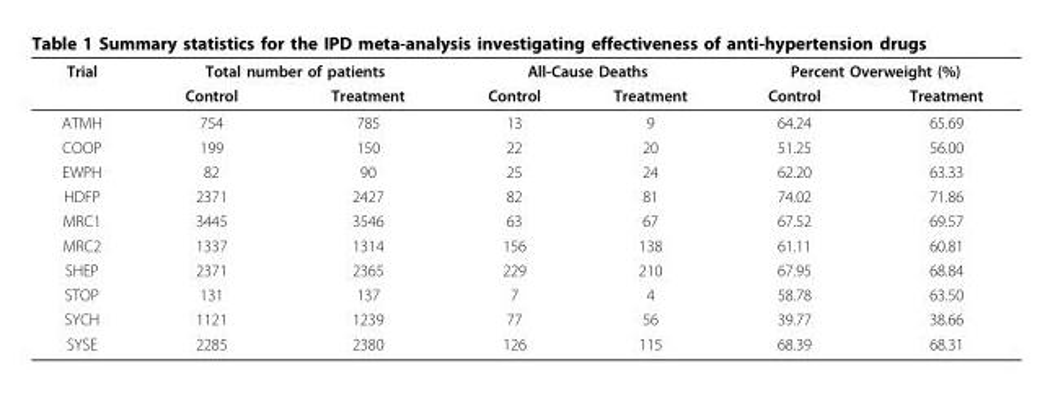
<table><thead><tr><td rowspan="2">Trial</td><td colspan="2">Total number of patients</td><td colspan="2">All-Cause Deaths</td><td colspan="2">Percent Overweight (%)</td></tr><tr><td>Control</td><td>Treatment</td><td>Control</td><td>Treatment</td><td>Control</td><td>Treatment</td></tr></thead><tbody><tr><td>ATMH</td><td>754</td><td>785</td><td>13</td><td>9</td><td>64.24</td><td>65.69</td></tr><tr><td>COOP</td><td>199</td><td>150</td><td>22</td><td>20</td><td>51.25</td><td>56.00</td></tr><tr><td>EWPH</td><td>82</td><td>90</td><td>25</td><td>24</td><td>62.20</td><td>63.33</td></tr><tr><td>HDFP</td><td>2371</td><td>2427</td><td>82</td><td>81</td><td>74.02</td><td>71.86</td></tr><tr><td>MRC1</td><td>3445</td><td>3546</td><td>63</td><td>67</td><td>67.52</td><td>69.57</td></tr><tr><td>MRC2</td><td>1337</td><td>1314</td><td>156</td><td>138</td><td>61.11</td><td>60.81</td></tr><tr><td>SHEP</td><td>2371</td><td>2365</td><td>229</td><td>210</td><td>67.95</td><td>68.84</td></tr><tr><td>STOP</td><td>131</td><td>137</td><td>7</td><td>4</td><td>58.78</td><td>63.50</td></tr><tr><td>SYCH</td><td>1121</td><td>1239</td><td>77</td><td>56</td><td>39.77</td><td>38.66</td></tr><tr><td>SYSE</td><td>2285</td><td>2380</td><td>126</td><td>115</td><td>68.39</td><td>68.31</td></tr></tbody></table>